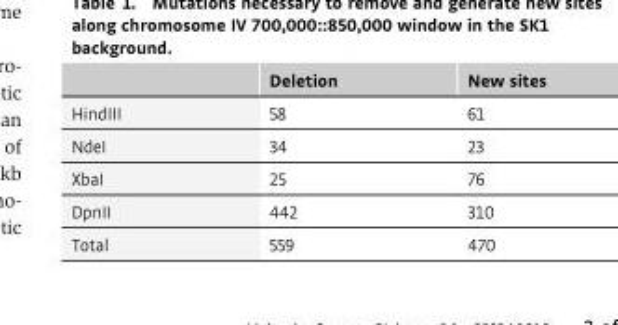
<table><thead><tr><td></td><td>Deletion</td><td>New sites</td></tr></thead><tbody><tr><td>HindIII</td><td>58</td><td>61</td></tr><tr><td>NdeI</td><td>34</td><td>23</td></tr><tr><td>XbaI</td><td>25</td><td>76</td></tr><tr><td>DpnII</td><td>442</td><td>310</td></tr><tr><td>Total</td><td>559</td><td>470</td></tr></tbody></table>